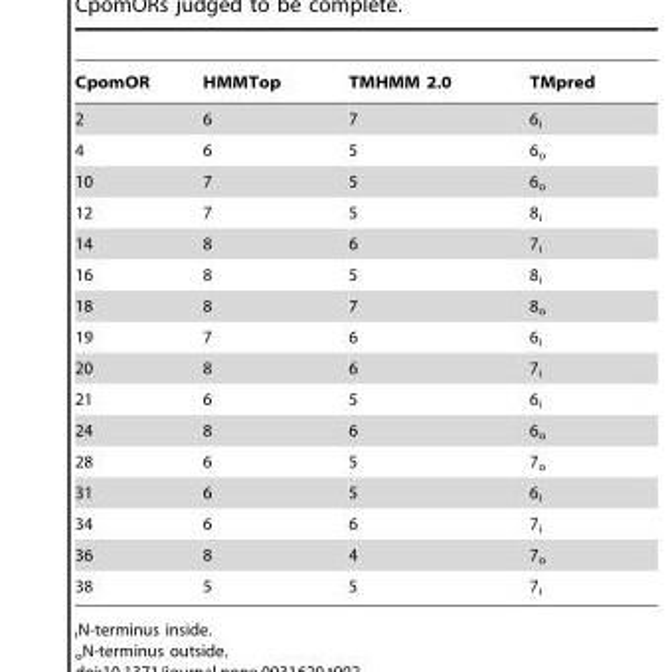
<table><thead><tr><td>CpomOR</td><td>HMMTop</td><td>TMHMM 2.0</td><td>TMpred</td></tr></thead><tbody><tr><td>2</td><td>6</td><td>7</td><td>6<sub>i</sub></td></tr><tr><td>4</td><td>6</td><td>5</td><td>6<sub>o</sub></td></tr><tr><td>10</td><td>7</td><td>5</td><td>6<sub>o</sub></td></tr><tr><td>12</td><td>7</td><td>5</td><td>8<sub>i</sub></td></tr><tr><td>14</td><td>8</td><td>6</td><td>7<sub>i</sub></td></tr><tr><td>16</td><td>8</td><td>5</td><td>8<sub>i</sub></td></tr><tr><td>18</td><td>8</td><td>7</td><td>8<sub>o</sub></td></tr><tr><td>19</td><td>7</td><td>6</td><td>6<sub>i</sub></td></tr><tr><td>20</td><td>8</td><td>6</td><td>7<sub>i</sub></td></tr><tr><td>21</td><td>6</td><td>5</td><td>6<sub>i</sub></td></tr><tr><td>24</td><td>8</td><td>6</td><td>6<sub>o</sub></td></tr><tr><td>28</td><td>6</td><td>5</td><td>7<sub>o</sub></td></tr><tr><td>31</td><td>6</td><td>5</td><td>6<sub>i</sub></td></tr><tr><td>34</td><td>6</td><td>6</td><td>7<sub>i</sub></td></tr><tr><td>36</td><td>8</td><td>4</td><td>7<sub>o</sub></td></tr><tr><td>38</td><td>5</td><td>5</td><td>7<sub>i</sub></td></tr></tbody></table>